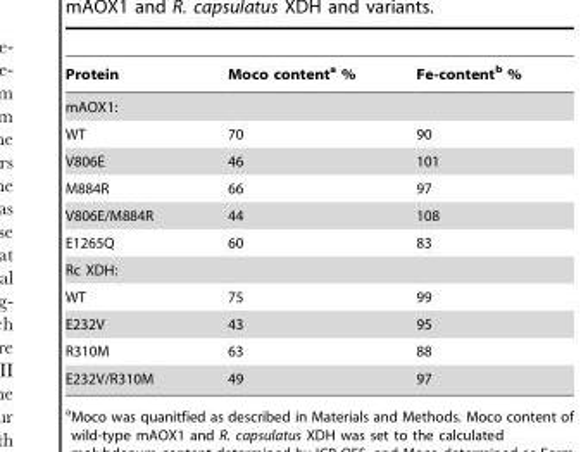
<table><thead><tr><td>Protein</td><td>Moco content<sup>a</sup> %</td><td>Fe-content<sup>b</sup> %</td></tr></thead><tbody><tr><td colspan="3">mAOX1:</td></tr><tr><td>WT</td><td>70</td><td>90</td></tr><tr><td>V806E</td><td>46</td><td>101</td></tr><tr><td>M884R</td><td>66</td><td>97</td></tr><tr><td>V806E/M884R</td><td>44</td><td>108</td></tr><tr><td>E1265Q</td><td>60</td><td>83</td></tr><tr><td colspan="3">Rc XDH:</td></tr><tr><td>WT</td><td>75</td><td>99</td></tr><tr><td>E232V</td><td>43</td><td>95</td></tr><tr><td>R310M</td><td>63</td><td>88</td></tr><tr><td>E232V/R310M</td><td>49</td><td>97</td></tr></tbody></table>